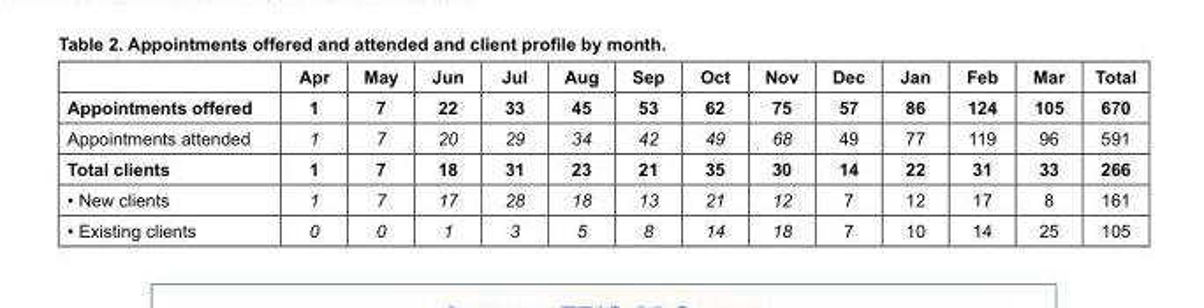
<table><thead><tr><td></td><td>Apr</td><td>May</td><td>Jun</td><td>Jul</td><td>Aug</td><td>Sep</td><td>Oct</td><td>Nov</td><td>Dec</td><td>Jan</td><td>Feb</td><td>Mar</td><td>Total</td></tr></thead><tbody><tr><td>Appointments offered</td><td>1</td><td>7</td><td>22</td><td>33</td><td>45</td><td>53</td><td>62</td><td>75</td><td>57</td><td>86</td><td>124</td><td>105</td><td>670</td></tr><tr><td>Appointments attended</td><td>1</td><td>7</td><td>20</td><td>29</td><td>34</td><td>42</td><td>49</td><td>68</td><td>49</td><td>77</td><td>119</td><td>96</td><td>591</td></tr><tr><td>Total clients</td><td>1</td><td>7</td><td>18</td><td>31</td><td>23</td><td>21</td><td>35</td><td>30</td><td>14</td><td>22</td><td>31</td><td>33</td><td>266</td></tr><tr><td>• New clients</td><td>1</td><td>7</td><td>17</td><td>28</td><td>18</td><td>13</td><td>21</td><td>12</td><td>7</td><td>12</td><td>17</td><td>8</td><td>161</td></tr><tr><td>• Existing clients</td><td>0</td><td>0</td><td>1</td><td>3</td><td>5</td><td>8</td><td>14</td><td>18</td><td>7</td><td>10</td><td>14</td><td>25</td><td>105</td></tr></tbody></table>